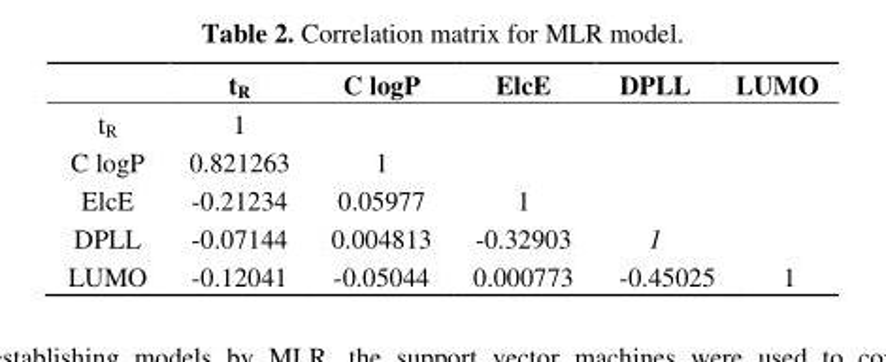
<table><thead><tr><td></td><td>t<sub>R</sub></td><td>C logP</td><td>ElcE</td><td>DPLL</td><td>LUMO</td></tr></thead><tbody><tr><td>t<sub>R</sub></td><td>1</td><td></td><td></td><td></td><td></td></tr><tr><td>C logP</td><td>0.821263</td><td>1</td><td></td><td></td><td></td></tr><tr><td>ElcE</td><td>-0.21234</td><td>0.05977</td><td>1</td><td></td><td></td></tr><tr><td>DPLL</td><td>-0.07144</td><td>0.004813</td><td>-0.32903</td><td>1</td><td></td></tr><tr><td>LUMO</td><td>-0.12041</td><td>-0.05044</td><td>0.000773</td><td>-0.45025</td><td>1</td></tr></tbody></table>